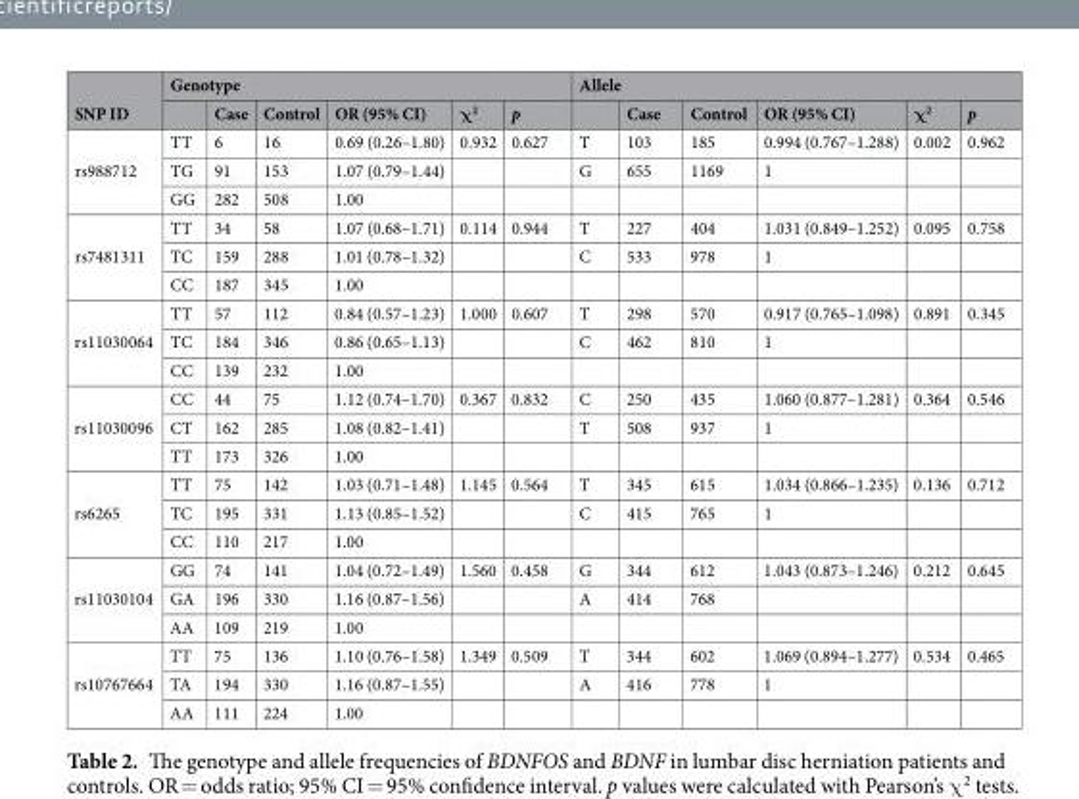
<table><thead><tr><td rowspan="2">SNP ID</td><td colspan="6">Genotype</td><td colspan="6">Allele</td></tr><tr><td></td><td>Case</td><td>Control</td><td>OR (95% CI)</td><td>χ<sup>2</sup></td><td>p</td><td></td><td>Case</td><td>Control</td><td>OR (95% CI)</td><td>χ<sup>2</sup></td><td>p</td></tr></thead><tbody><tr><td rowspan="3">rs988712</td><td>TT</td><td>6</td><td>16</td><td>0.69 (0.26–1.80)</td><td>0.932</td><td>0.627</td><td>T</td><td>103</td><td>185</td><td>0.994 (0.767–1.288)</td><td>0.002</td><td>0.962</td></tr><tr><td>TG</td><td>91</td><td>153</td><td>1.07 (0.79–1.44)</td><td></td><td></td><td>G</td><td>655</td><td>1169</td><td>1</td><td></td><td></td></tr><tr><td>GG</td><td>282</td><td>508</td><td>1.00</td><td></td><td></td><td></td><td></td><td></td><td></td><td></td><td></td></tr><tr><td rowspan="3">rs7481311</td><td>TT</td><td>34</td><td>58</td><td>1.07 (0.68–1.71)</td><td>0.114</td><td>0.944</td><td>T</td><td>227</td><td>404</td><td>1.031 (0.849–1.252)</td><td>0.095</td><td>0.758</td></tr><tr><td>TC</td><td>159</td><td>288</td><td>1.01 (0.78–1.32)</td><td></td><td></td><td>C</td><td>533</td><td>978</td><td>1</td><td></td><td></td></tr><tr><td>CC</td><td>187</td><td>345</td><td>1.00</td><td></td><td></td><td></td><td></td><td></td><td></td><td></td><td></td></tr><tr><td rowspan="3">rs11030064</td><td>TT</td><td>57</td><td>112</td><td>0.84 (0.57–1.23)</td><td>1.000</td><td>0.607</td><td>T</td><td>298</td><td>570</td><td>0.917 (0.765–1.098)</td><td>0.891</td><td>0.345</td></tr><tr><td>TC</td><td>184</td><td>346</td><td>0.86 (0.65–1.13)</td><td></td><td></td><td>C</td><td>462</td><td>810</td><td>1</td><td></td><td></td></tr><tr><td>CC</td><td>139</td><td>232</td><td>1.00</td><td></td><td></td><td></td><td></td><td></td><td></td><td></td><td></td></tr><tr><td rowspan="3">rs11030096</td><td>CC</td><td>44</td><td>75</td><td>1.12 (0.74–1.70)</td><td>0.367</td><td>0.832</td><td>C</td><td>250</td><td>435</td><td>1.060 (0.877–1.281)</td><td>0.364</td><td>0.546</td></tr><tr><td>CT</td><td>162</td><td>285</td><td>1.08 (0.82–1.41)</td><td></td><td></td><td>T</td><td>508</td><td>937</td><td>1</td><td></td><td></td></tr><tr><td>TT</td><td>173</td><td>326</td><td>1.00</td><td></td><td></td><td></td><td></td><td></td><td></td><td></td><td></td></tr><tr><td rowspan="3">rs6265</td><td>TT</td><td>75</td><td>142</td><td>1.03 (0.71–1.48)</td><td>1.145</td><td>0.564</td><td>T</td><td>345</td><td>615</td><td>1.034 (0.866–1.235)</td><td>0.136</td><td>0.712</td></tr><tr><td>TC</td><td>195</td><td>331</td><td>1.13 (0.85–1.52)</td><td></td><td></td><td>C</td><td>415</td><td>765</td><td>1</td><td></td><td></td></tr><tr><td>CC</td><td>110</td><td>217</td><td>1.00</td><td></td><td></td><td></td><td></td><td></td><td></td><td></td><td></td></tr><tr><td rowspan="3">rs11030104</td><td>GG</td><td>74</td><td>141</td><td>1.04 (0.72–1.49)</td><td>1.560</td><td>0.458</td><td>G</td><td>344</td><td>612</td><td>1.043 (0.873–1.246)</td><td>0.212</td><td>0.645</td></tr><tr><td>GA</td><td>196</td><td>330</td><td>1.16 (0.87–1.56)</td><td></td><td></td><td>A</td><td>414</td><td>768</td><td></td><td></td><td></td></tr><tr><td>AA</td><td>109</td><td>219</td><td>1.00</td><td></td><td></td><td></td><td></td><td></td><td></td><td></td><td></td></tr><tr><td rowspan="3">rs10767664</td><td>TT</td><td>75</td><td>136</td><td>1.10 (0.76–1.58)</td><td>1.349</td><td>0.509</td><td>T</td><td>344</td><td>602</td><td>1.069 (0.894–1.277)</td><td>0.534</td><td>0.465</td></tr><tr><td>TA</td><td>194</td><td>330</td><td>1.16 (0.87–1.55)</td><td></td><td></td><td>A</td><td>416</td><td>778</td><td>1</td><td></td><td></td></tr><tr><td>AA</td><td>111</td><td>224</td><td>1.00</td><td></td><td></td><td></td><td></td><td></td><td></td><td></td><td></td></tr></tbody></table>